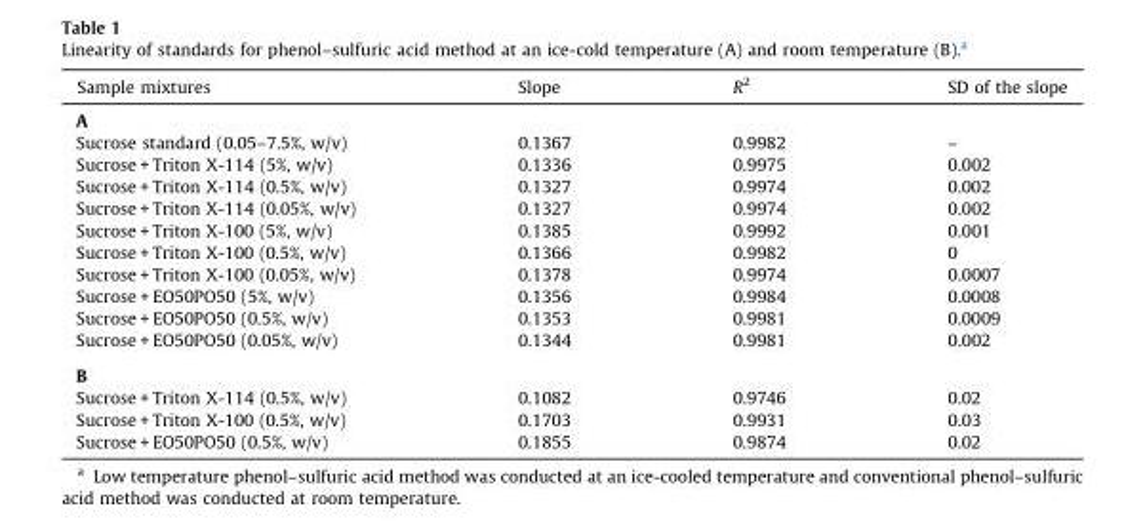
<table><thead><tr><td>Sample mixtures</td><td>Slope</td><td>R<sup>2</sup></td><td>SD of the slope</td></tr></thead><tbody><tr><td colspan="4">A</td></tr><tr><td>Sucrose standard (0.05–7.5%, w/v)</td><td>0.1367</td><td>0.9982</td><td>–</td></tr><tr><td>Sucrose + Triton X-114 (5%, w/v)</td><td>0.1336</td><td>0.9975</td><td>0.002</td></tr><tr><td>Sucrose + Triton X-114 (0.5%, w/v)</td><td>0.1327</td><td>0.9974</td><td>0.002</td></tr><tr><td>Sucrose + Triton X-114 (0.05%, w/v)</td><td>0.1327</td><td>0.9974</td><td>0.002</td></tr><tr><td>Sucrose + Triton X-100 (5%, w/v)</td><td>0.1385</td><td>0.9992</td><td>0.001</td></tr><tr><td>Sucrose + Triton X-100 (0.5%, w/v)</td><td>0.1366</td><td>0.9982</td><td>0</td></tr><tr><td>Sucrose + Triton X-100 (0.05%, w/v)</td><td>0.1378</td><td>0.9974</td><td>0.0007</td></tr><tr><td>Sucrose + EO50PO50 (5%, w/v)</td><td>0.1356</td><td>0.9984</td><td>0.0008</td></tr><tr><td>Sucrose + EO50PO50 (0.5%, w/v)</td><td>0.1353</td><td>0.9981</td><td>0.0009</td></tr><tr><td>Sucrose + EO50PO50 (0.05%, w/v)</td><td>0.1344</td><td>0.9981</td><td>0.002</td></tr><tr><td colspan="4">B</td></tr><tr><td>Sucrose + Triton X-114 (0.5%, w/v)</td><td>0.1082</td><td>0.9746</td><td>0.02</td></tr><tr><td>Sucrose + Triton X-100 (0.5%, w/v)</td><td>0.1703</td><td>0.9931</td><td>0.03</td></tr><tr><td>Sucrose + EO50PO50 (0.5%, w/v)</td><td>0.1855</td><td>0.9874</td><td>0.02</td></tr></tbody></table>